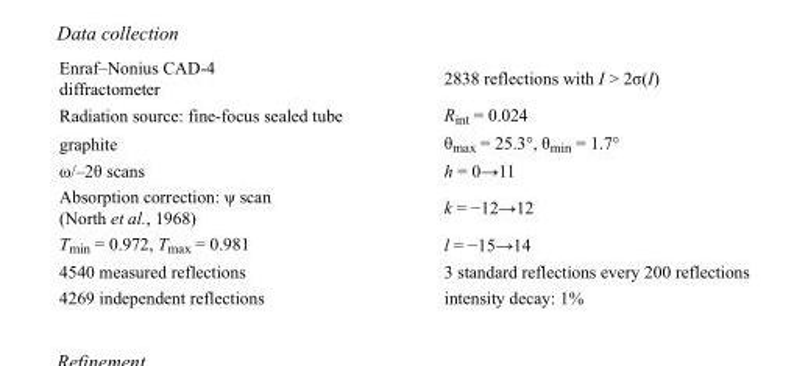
<table><tbody><tr><td>Enraf–Nonius CAD-4 diffractometer</td><td>2838 reflections with I &gt; 2σ(I)</td></tr><tr><td>Radiation source: fine-focus sealed tube</td><td>R<sub>int</sub> = 0.024</td></tr><tr><td>graphite</td><td>θ<sub>max</sub> = 25.3°, θ<sub>min</sub> = 1.7°</td></tr><tr><td>ω/–2θ scans</td><td>h = 0→11</td></tr><tr><td>Absorption correction: ψ scan (North et al., 1968)</td><td>k = −12→12</td></tr><tr><td>T<sub>min</sub> = 0.972, T<sub>max</sub> = 0.981</td><td>l = −15→14</td></tr><tr><td>4540 measured reflections</td><td>3 standard reflections every 200 reflections</td></tr><tr><td>4269 independent reflections</td><td>intensity decay: 1%</td></tr></tbody></table>